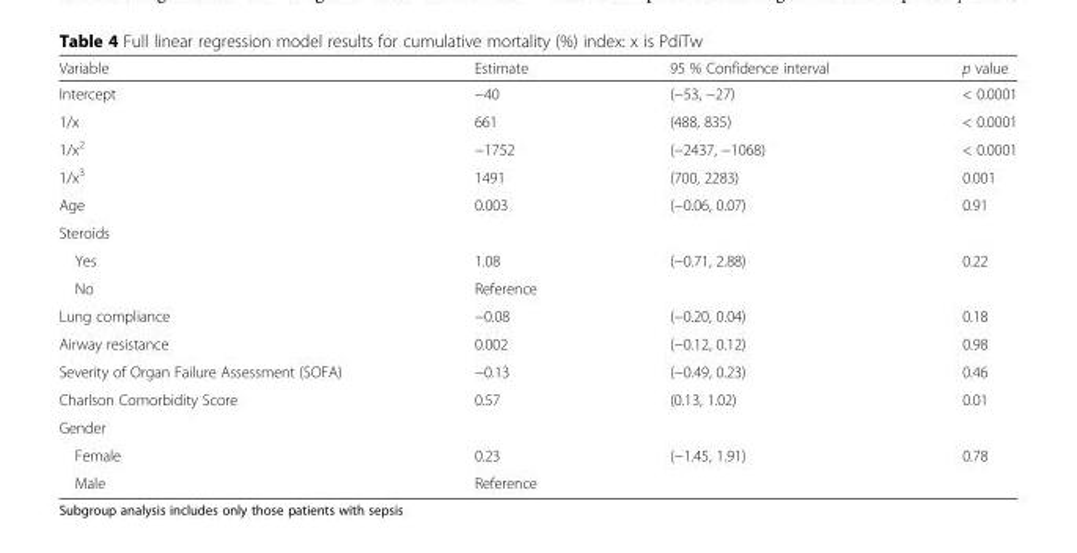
<table><thead><tr><td>Variable</td><td>Estimate</td><td>95 % Confidence interval</td><td>p value</td></tr></thead><tbody><tr><td>Intercept</td><td>−40</td><td>(−53, −27)</td><td>&lt; 0.0001</td></tr><tr><td>1/x</td><td>661</td><td>(488, 835)</td><td>&lt; 0.0001</td></tr><tr><td>1/x<sup>2</sup></td><td>−1752</td><td>(−2437, −1068)</td><td>&lt; 0.0001</td></tr><tr><td>1/x<sup>3</sup></td><td>1491</td><td>(700, 2283)</td><td>0.001</td></tr><tr><td>Age</td><td>0.003</td><td>(−0.06, 0.07)</td><td>0.91</td></tr><tr><td colspan="4">Steroids</td></tr><tr><td>Yes</td><td>1.08</td><td rowspan="2">(−0.71, 2.88)</td><td rowspan="2">0.22</td></tr><tr><td>No</td><td>Reference</td></tr><tr><td>Lung compliance</td><td>−0.08</td><td>(−0.20, 0.04)</td><td>0.18</td></tr><tr><td>Airway resistance</td><td>0.002</td><td>(−0.12, 0.12)</td><td>0.98</td></tr><tr><td>Severity of Organ Failure Assessment (SOFA)</td><td>−0.13</td><td>(−0.49, 0.23)</td><td>0.46</td></tr><tr><td>Charlson Comorbidity Score</td><td>0.57</td><td>(0.13, 1.02)</td><td>0.01</td></tr><tr><td colspan="4">Gender</td></tr><tr><td>Female</td><td>0.23</td><td rowspan="2">(−1.45, 1.91)</td><td rowspan="2">0.78</td></tr><tr><td>Male</td><td>Reference</td></tr></tbody></table>